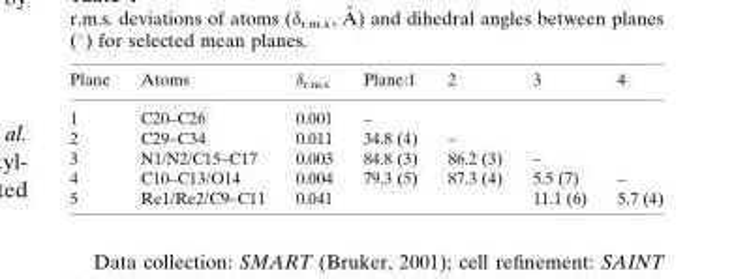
<table><thead><tr><td>Plane</td><td>Atoms</td><td>δ<sub>r.m.s.</sub></td><td>Plane:1</td><td>2</td><td>3</td><td>4</td></tr></thead><tbody><tr><td>1</td><td>C20–C26</td><td>0.001</td><td>–</td><td></td><td></td><td></td></tr><tr><td>2</td><td>C29–C34</td><td>0.011</td><td>34.8 (4)</td><td>–</td><td></td><td></td></tr><tr><td>3</td><td>N1/N2/C15–C17</td><td>0.003</td><td>84.8 (3)</td><td>86.2 (3)</td><td>–</td><td></td></tr><tr><td>4</td><td>C10–C13/O14</td><td>0.004</td><td>79.3 (5)</td><td>87.3 (4)</td><td>5.5 (7)</td><td>–</td></tr><tr><td>5</td><td>Re1/Re2/C9–C11</td><td>0.041</td><td></td><td></td><td>11.1 (6)</td><td>5.7 (4)</td></tr></tbody></table>